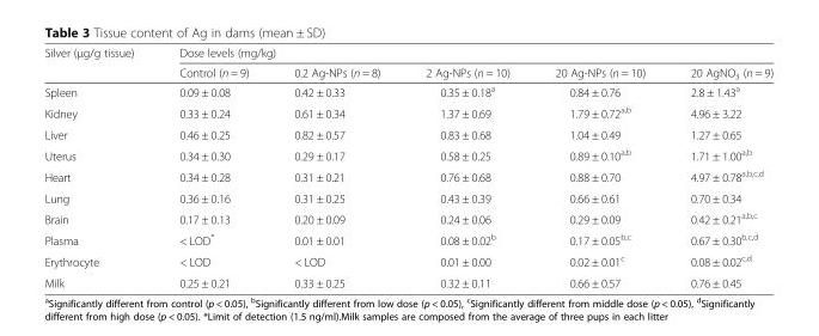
<table><thead><tr><td rowspan="2">Silver (μg/g tissue)</td><td colspan="5">Dose levels (mg/kg)</td></tr><tr><td>Control (n = 9)</td><td>0.2 Ag-NPs (n = 8)</td><td>2 Ag-NPs (n = 10)</td><td>20 Ag-NPs (n = 10)</td><td>20 AgNO<sub>3</sub> (n = 9)</td></tr></thead><tbody><tr><td>Spleen</td><td>0.09 ± 0.08</td><td>0.42 ± 0.33</td><td>0.35 ± 0.18<sup>a</sup></td><td>0.84 ± 0.76</td><td>2.8 ± 1.43<sup>a</sup></td></tr><tr><td>Kidney</td><td>0.33 ± 0.24</td><td>0.61 ± 0.34</td><td>1.37 ± 0.69</td><td>1.79 ± 0.72<sup>a,b</sup></td><td>4.96 ± 3.22</td></tr><tr><td>Liver</td><td>0.46 ± 0.25</td><td>0.82 ± 0.57</td><td>0.83 ± 0.68</td><td>1.04 ± 0.49</td><td>1.27 ± 0.65</td></tr><tr><td>Uterus</td><td>0.34 ± 0.30</td><td>0.29 ± 0.17</td><td>0.58 ± 0.25</td><td>0.89 ± 0.10<sup>a,b</sup></td><td>1.71 ± 1.00<sup>a,b</sup></td></tr><tr><td>Heart</td><td>0.34 ± 0.28</td><td>0.31 ± 0.21</td><td>0.76 ± 0.68</td><td>0.88 ± 0.70</td><td>4.97 ± 0.78<sup>a,b,c,d</sup></td></tr><tr><td>Lung</td><td>0.36 ± 0.16</td><td>0.31 ± 0.25</td><td>0.43 ± 0.39</td><td>0.66 ± 0.61</td><td>0.70 ± 0.34</td></tr><tr><td>Brain</td><td>0.17 ± 0.13</td><td>0.20 ± 0.09</td><td>0.24 ± 0.06</td><td>0.29 ± 0.09</td><td>0.42 ± 0.21<sup>a,b,c</sup></td></tr><tr><td>Plasma</td><td>&lt; LOD*</td><td>0.01 ± 0.01</td><td>0.08 ± 0.02<sup>b</sup></td><td>0.17 ± 0.05<sup>b,c</sup></td><td>0.67 ± 0.30<sup>b,c,d</sup></td></tr><tr><td>Erythrocyte</td><td>&lt; LOD</td><td>&lt; LOD</td><td>0.01 ± 0.00</td><td>0.02 ± 0.01<sup>c</sup></td><td>0.08 ± 0.02<sup>c,d</sup></td></tr><tr><td>Milk</td><td>0.25 ± 0.21</td><td>0.33 ± 0.25</td><td>0.32 ± 0.11</td><td>0.66 ± 0.57</td><td>0.76 ± 0.45</td></tr></tbody></table>